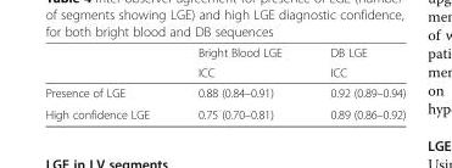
<table><thead><tr><td rowspan="2"></td><td rowspan="2">Bright Blood LGE ICC</td><td rowspan="2">DB LGE ICC</td></tr><tr></tr></thead><tbody><tr><td>Presence of LGE</td><td>0.88 (0.84–0.91)</td><td>0.92 (0.89–0.94)</td></tr><tr><td>High confidence LGE</td><td>0.75 (0.70–0.81)</td><td>0.89 (0.86–0.92)</td></tr></tbody></table>